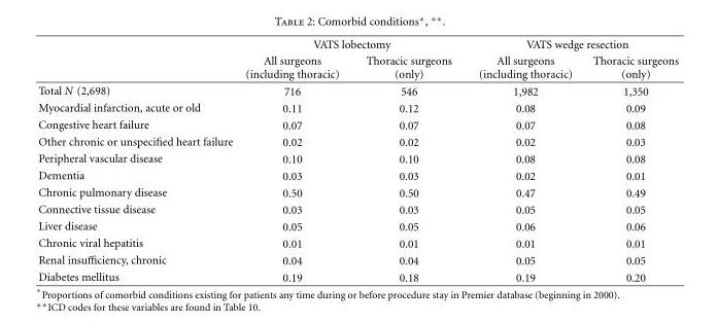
<table><thead><tr><td rowspan="2"></td><td colspan="2">VATS lobectomy</td><td colspan="2">VATS wedge resection</td></tr><tr><td>All surgeons (including thoracic)</td><td>Thoracic surgeons (only)</td><td>All surgeons (including thoracic)</td><td>Thoracic surgeons (only)</td></tr></thead><tbody><tr><td>Total N (2,698)</td><td>716</td><td>546</td><td>1,982</td><td>1,350</td></tr><tr><td>Myocardial infarction, acute or old</td><td>0.11</td><td>0.12</td><td>0.08</td><td>0.09</td></tr><tr><td>Congestive heart failure</td><td>0.07</td><td>0.07</td><td>0.07</td><td>0.08</td></tr><tr><td>Other chronic or unspecified heart failure</td><td>0.02</td><td>0.02</td><td>0.02</td><td>0.03</td></tr><tr><td>Peripheral vascular disease</td><td>0.10</td><td>0.10</td><td>0.08</td><td>0.08</td></tr><tr><td>Dementia</td><td>0.03</td><td>0.03</td><td>0.02</td><td>0.01</td></tr><tr><td>Chronic pulmonary disease</td><td>0.50</td><td>0.50</td><td>0.47</td><td>0.49</td></tr><tr><td>Connective tissue disease</td><td>0.03</td><td>0.03</td><td>0.05</td><td>0.05</td></tr><tr><td>Liver disease</td><td>0.05</td><td>0.05</td><td>0.06</td><td>0.06</td></tr><tr><td>Chronic viral hepatitis</td><td>0.01</td><td>0.01</td><td>0.01</td><td>0.01</td></tr><tr><td>Renal insufficiency, chronic</td><td>0.04</td><td>0.04</td><td>0.05</td><td>0.05</td></tr><tr><td>Diabetes mellitus</td><td>0.19</td><td>0.18</td><td>0.19</td><td>0.20</td></tr></tbody></table>